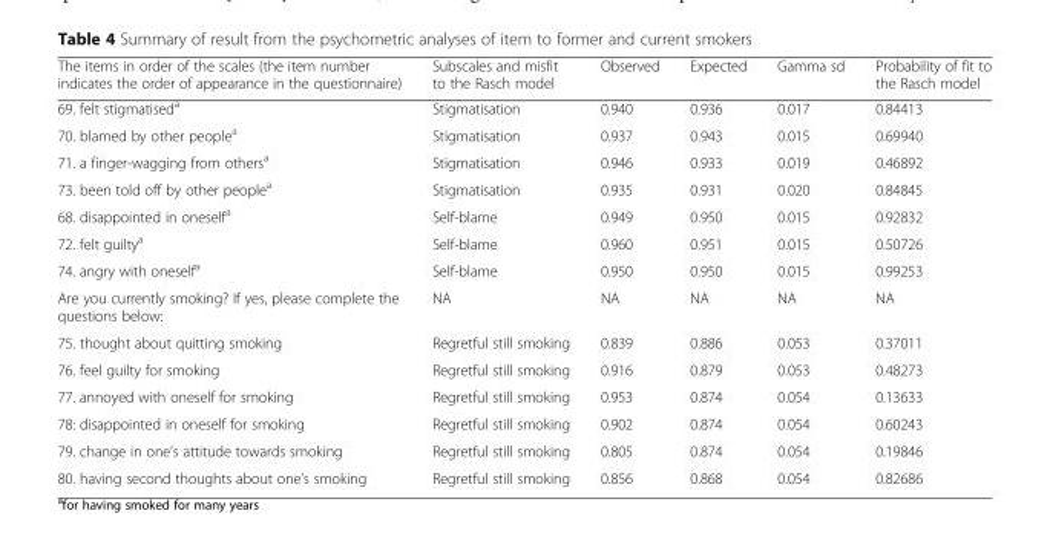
<table><thead><tr><td>The items in order of the scales (the item number indicates the order of appearance in the questionnaire)</td><td>Subscales and misfit to the Rasch model</td><td>Observed</td><td>Expected</td><td>Gamma sd</td><td>Probability of fit to the Rasch model</td></tr></thead><tbody><tr><td>69. felt stigmatiseda</td><td>Stigmatisation</td><td>0.940</td><td>0.936</td><td>0.017</td><td>0.84413</td></tr><tr><td>70. blamed by other peoplea</td><td>Stigmatisation</td><td>0.937</td><td>0.943</td><td>0.015</td><td>0.69940</td></tr><tr><td>71. a finger-wagging from othersa</td><td>Stigmatisation</td><td>0.946</td><td>0.933</td><td>0.019</td><td>0.46892</td></tr><tr><td>73. been told off by other peoplea</td><td>Stigmatisation</td><td>0.935</td><td>0.931</td><td>0.020</td><td>0.84845</td></tr><tr><td>68. disappointed in oneselfa</td><td>Self-blame</td><td>0.949</td><td>0.950</td><td>0.015</td><td>0.92832</td></tr><tr><td>72. felt guiltya</td><td>Self-blame</td><td>0.960</td><td>0.951</td><td>0.015</td><td>0.50726</td></tr><tr><td>74. angry with oneselfa</td><td>Self-blame</td><td>0.950</td><td>0.950</td><td>0.015</td><td>0.99253</td></tr><tr><td>Are you currently smoking? If yes, please complete the questions below:</td><td>NA</td><td>NA</td><td>NA</td><td>NA</td><td>NA</td></tr><tr><td>75. thought about quitting smoking</td><td>Regretful still smoking</td><td>0.839</td><td>0.886</td><td>0.053</td><td>0.37011</td></tr><tr><td>76. feel guilty for smoking</td><td>Regretful still smoking</td><td>0.916</td><td>0.879</td><td>0.053</td><td>0.48273</td></tr><tr><td>77. annoyed with oneself for smoking</td><td>Regretful still smoking</td><td>0.953</td><td>0.874</td><td>0.054</td><td>0.13633</td></tr><tr><td>78: disappointed in oneself for smoking</td><td>Regretful still smoking</td><td>0.902</td><td>0.874</td><td>0.054</td><td>0.60243</td></tr><tr><td>79. change in one’s attitude towards smoking</td><td>Regretful still smoking</td><td>0.805</td><td>0.874</td><td>0.054</td><td>0.19846</td></tr><tr><td>80. having second thoughts about one’s smoking</td><td>Regretful still smoking</td><td>0.856</td><td>0.868</td><td>0.054</td><td>0.82686</td></tr></tbody></table>